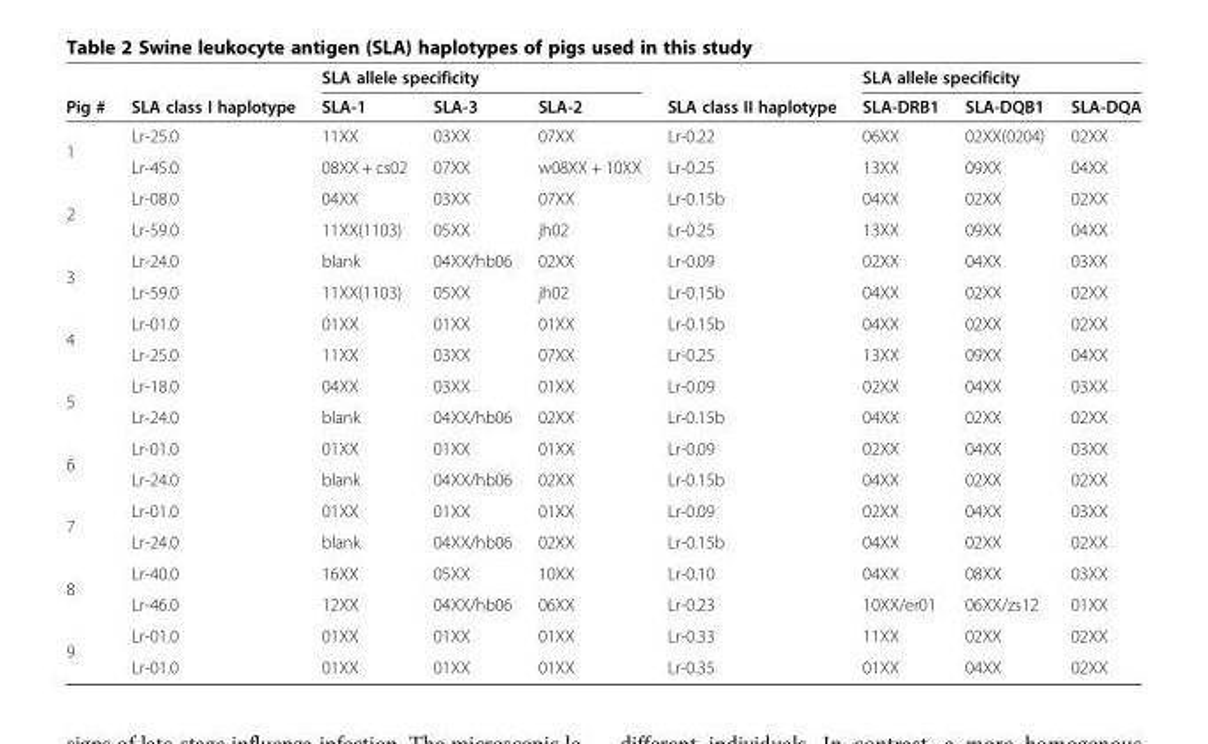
<table><thead><tr><td rowspan="2">Pig #</td><td rowspan="2">SLA class I haplotype</td><td colspan="3">SLA allele specificity</td><td rowspan="2">SLA class II haplotype</td><td colspan="3">SLA allele specificity</td></tr><tr><td>SLA-1</td><td>SLA-3</td><td>SLA-2</td><td>SLA-DRB1</td><td>SLA-DQB1</td><td>SLA-DQA</td></tr></thead><tbody><tr><td rowspan="2">1</td><td>Lr-25.0</td><td>11XX</td><td>03XX</td><td>07XX</td><td>Lr-0.22</td><td>06XX</td><td>02XX(0204)</td><td>02XX</td></tr><tr><td>Lr-45.0</td><td>08XX + cs02</td><td>07XX</td><td>w08XX + 10XX</td><td>Lr-0.25</td><td>13XX</td><td>09XX</td><td>04XX</td></tr><tr><td rowspan="2">2</td><td>Lr-08.0</td><td>04XX</td><td>03XX</td><td>07XX</td><td>Lr-0.15b</td><td>04XX</td><td>02XX</td><td>02XX</td></tr><tr><td>Lr-59.0</td><td>11XX(1103)</td><td>05XX</td><td>jh02</td><td>Lr-0.25</td><td>13XX</td><td>09XX</td><td>04XX</td></tr><tr><td rowspan="2">3</td><td>Lr-24.0</td><td>blank</td><td>04XX/hb06</td><td>02XX</td><td>Lr-0.09</td><td>02XX</td><td>04XX</td><td>03XX</td></tr><tr><td>Lr-59.0</td><td>11XX(1103)</td><td>05XX</td><td>jh02</td><td>Lr-0.15b</td><td>04XX</td><td>02XX</td><td>02XX</td></tr><tr><td rowspan="2">4</td><td>Lr-01.0</td><td>01XX</td><td>01XX</td><td>01XX</td><td>Lr-0.15b</td><td>04XX</td><td>02XX</td><td>02XX</td></tr><tr><td>Lr-25.0</td><td>11XX</td><td>03XX</td><td>07XX</td><td>Lr-0.25</td><td>13XX</td><td>09XX</td><td>04XX</td></tr><tr><td rowspan="2">5</td><td>Lr-18.0</td><td>04XX</td><td>03XX</td><td>01XX</td><td>Lr-0.09</td><td>02XX</td><td>04XX</td><td>03XX</td></tr><tr><td>Lr-24.0</td><td>blank</td><td>04XX/hb06</td><td>02XX</td><td>Lr-0.15b</td><td>04XX</td><td>02XX</td><td>02XX</td></tr><tr><td rowspan="2">6</td><td>Lr-01.0</td><td>01XX</td><td>01XX</td><td>01XX</td><td>Lr-0.09</td><td>02XX</td><td>04XX</td><td>03XX</td></tr><tr><td>Lr-24.0</td><td>blank</td><td>04XX/hb06</td><td>02XX</td><td>Lr-0.15b</td><td>04XX</td><td>02XX</td><td>02XX</td></tr><tr><td rowspan="2">7</td><td>Lr-01.0</td><td>01XX</td><td>01XX</td><td>01XX</td><td>Lr-0.09</td><td>02XX</td><td>04XX</td><td>03XX</td></tr><tr><td>Lr-24.0</td><td>blank</td><td>04XX/hb06</td><td>02XX</td><td>Lr-0.15b</td><td>04XX</td><td>02XX</td><td>02XX</td></tr><tr><td rowspan="2">8</td><td>Lr-40.0</td><td>16XX</td><td>05XX</td><td>10XX</td><td>Lr-0.10</td><td>04XX</td><td>08XX</td><td>03XX</td></tr><tr><td>Lr-46.0</td><td>12XX</td><td>04XX/hb06</td><td>06XX</td><td>Lr-0.23</td><td>10XX/er01</td><td>06XX/zs12</td><td>01XX</td></tr><tr><td rowspan="2">9</td><td>Lr-01.0</td><td>01XX</td><td>01XX</td><td>01XX</td><td>Lr-0.33</td><td>11XX</td><td>02XX</td><td>02XX</td></tr><tr><td>Lr-01.0</td><td>01XX</td><td>01XX</td><td>01XX</td><td>Lr-0.35</td><td>01XX</td><td>04XX</td><td>02XX</td></tr></tbody></table>